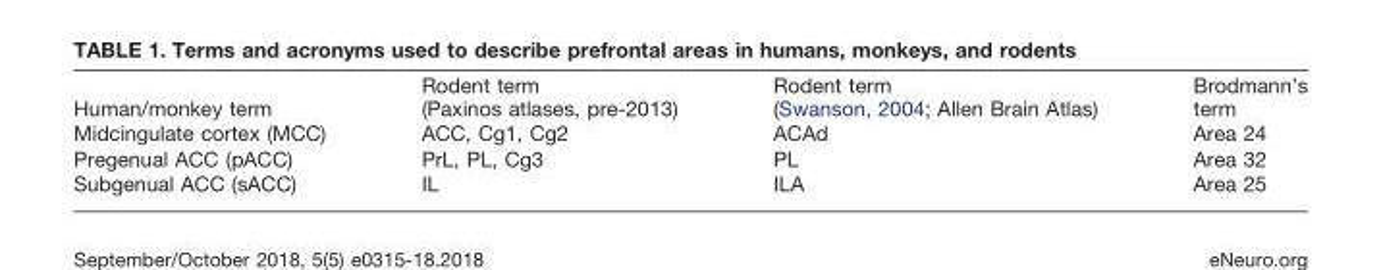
<table><thead><tr><td>Human/monkey term</td><td>Rodent term (Paxinos atlases, pre-2013)</td><td>Rodent term (Swanson, 2004; Allen Brain Atlas)</td><td>Brodmann’s term</td></tr></thead><tbody><tr><td>Midcingulate cortex (MCC)</td><td>ACC, Cg1, Cg2</td><td>ACAd</td><td>Area 24</td></tr><tr><td>Pregenual ACC (pACC)</td><td>PrL, PL, Cg3</td><td>PL</td><td>Area 32</td></tr><tr><td>Subgenual ACC (sACC)</td><td>IL</td><td>ILA</td><td>Area 25</td></tr></tbody></table>